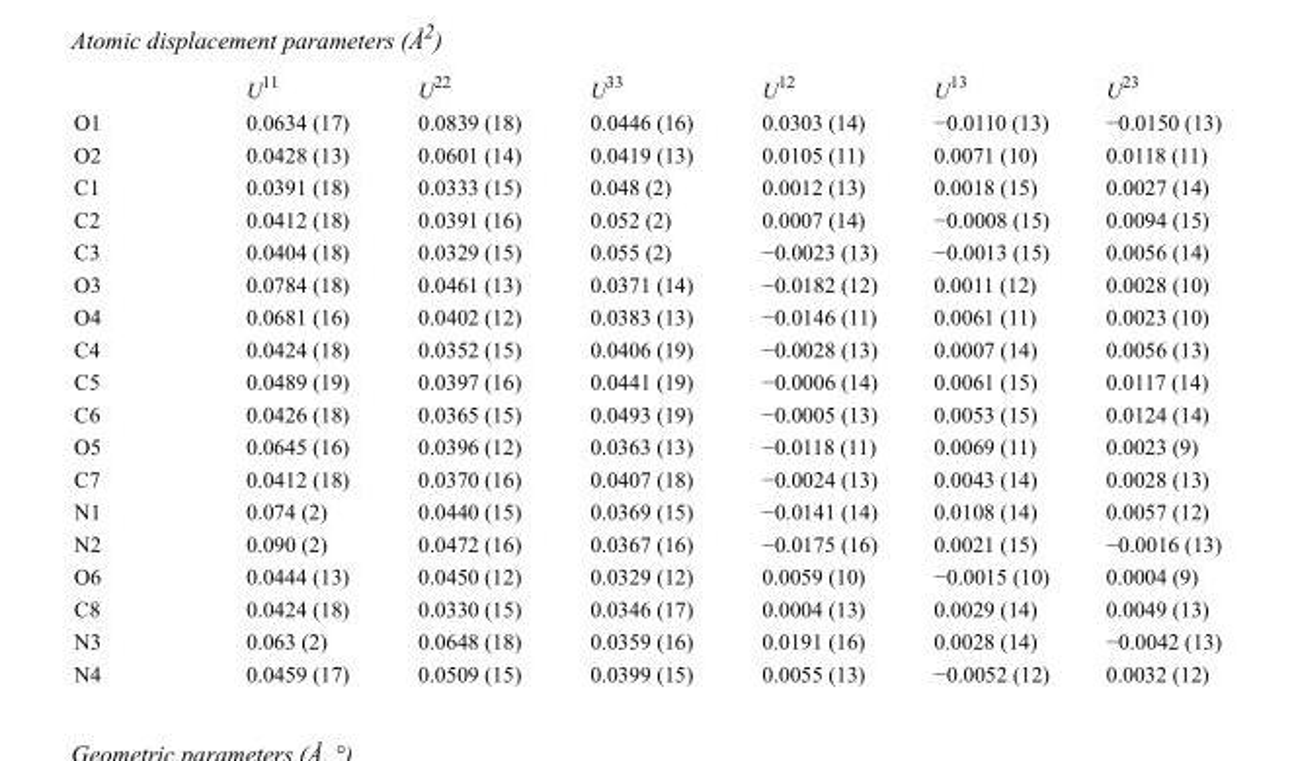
<table><thead><tr><td></td><td>U<sup>11</sup></td><td>U<sup>22</sup></td><td>U<sup>33</sup></td><td>U<sup>12</sup></td><td>U<sup>13</sup></td><td>U<sup>23</sup></td></tr></thead><tbody><tr><td>O1</td><td>0.0634 (17)</td><td>0.0839 (18)</td><td>0.0446 (16)</td><td>0.0303 (14)</td><td>−0.0110 (13)</td><td>−0.0150 (13)</td></tr><tr><td>O2</td><td>0.0428 (13)</td><td>0.0601 (14)</td><td>0.0419 (13)</td><td>0.0105 (11)</td><td>0.0071 (10)</td><td>0.0118 (11)</td></tr><tr><td>C1</td><td>0.0391 (18)</td><td>0.0333 (15)</td><td>0.048 (2)</td><td>0.0012 (13)</td><td>0.0018 (15)</td><td>0.0027 (14)</td></tr><tr><td>C2</td><td>0.0412 (18)</td><td>0.0391 (16)</td><td>0.052 (2)</td><td>0.0007 (14)</td><td>−0.0008 (15)</td><td>0.0094 (15)</td></tr><tr><td>C3</td><td>0.0404 (18)</td><td>0.0329 (15)</td><td>0.055 (2)</td><td>−0.0023 (13)</td><td>−0.0013 (15)</td><td>0.0056 (14)</td></tr><tr><td>O3</td><td>0.0784 (18)</td><td>0.0461 (13)</td><td>0.0371 (14)</td><td>−0.0182 (12)</td><td>0.0011 (12)</td><td>0.0028 (10)</td></tr><tr><td>O4</td><td>0.0681 (16)</td><td>0.0402 (12)</td><td>0.0383 (13)</td><td>−0.0146 (11)</td><td>0.0061 (11)</td><td>0.0023 (10)</td></tr><tr><td>C4</td><td>0.0424 (18)</td><td>0.0352 (15)</td><td>0.0406 (19)</td><td>−0.0028 (13)</td><td>0.0007 (14)</td><td>0.0056 (13)</td></tr><tr><td>C5</td><td>0.0489 (19)</td><td>0.0397 (16)</td><td>0.0441 (19)</td><td>−0.0006 (14)</td><td>0.0061 (15)</td><td>0.0117 (14)</td></tr><tr><td>C6</td><td>0.0426 (18)</td><td>0.0365 (15)</td><td>0.0493 (19)</td><td>−0.0005 (13)</td><td>0.0053 (15)</td><td>0.0124 (14)</td></tr><tr><td>O5</td><td>0.0645 (16)</td><td>0.0396 (12)</td><td>0.0363 (13)</td><td>−0.0118 (11)</td><td>0.0069 (11)</td><td>0.0023 (9)</td></tr><tr><td>C7</td><td>0.0412 (18)</td><td>0.0370 (16)</td><td>0.0407 (18)</td><td>−0.0024 (13)</td><td>0.0043 (14)</td><td>0.0028 (13)</td></tr><tr><td>N1</td><td>0.074 (2)</td><td>0.0440 (15)</td><td>0.0369 (15)</td><td>−0.0141 (14)</td><td>0.0108 (14)</td><td>0.0057 (12)</td></tr><tr><td>N2</td><td>0.090 (2)</td><td>0.0472 (16)</td><td>0.0367 (16)</td><td>−0.0175 (16)</td><td>0.0021 (15)</td><td>−0.0016 (13)</td></tr><tr><td>O6</td><td>0.0444 (13)</td><td>0.0450 (12)</td><td>0.0329 (12)</td><td>0.0059 (10)</td><td>−0.0015 (10)</td><td>0.0004 (9)</td></tr><tr><td>C8</td><td>0.0424 (18)</td><td>0.0330 (15)</td><td>0.0346 (17)</td><td>0.0004 (13)</td><td>0.0029 (14)</td><td>0.0049 (13)</td></tr><tr><td>N3</td><td>0.063 (2)</td><td>0.0648 (18)</td><td>0.0359 (16)</td><td>0.0191 (16)</td><td>0.0028 (14)</td><td>−0.0042 (13)</td></tr><tr><td>N4</td><td>0.0459 (17)</td><td>0.0509 (15)</td><td>0.0399 (15)</td><td>0.0055 (13)</td><td>−0.0052 (12)</td><td>0.0032 (12)</td></tr></tbody></table>